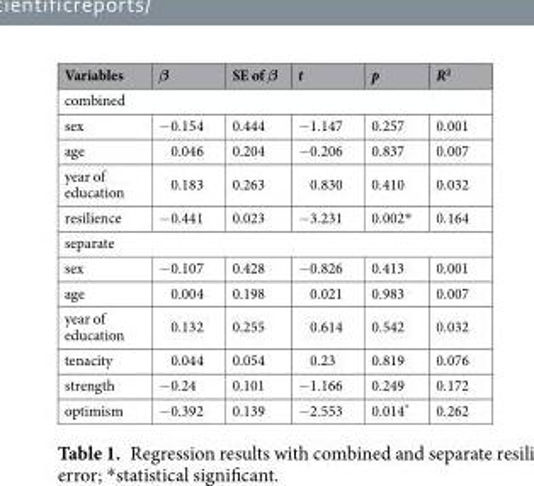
<table><thead><tr><td>Variables</td><td>β</td><td>SE of β</td><td>t</td><td>p</td><td>R<sup>2</sup></td></tr></thead><tbody><tr><td colspan="6">combined</td></tr><tr><td>sex</td><td>−0.154</td><td>0.444</td><td>−1.147</td><td>0.257</td><td>0.001</td></tr><tr><td>age</td><td>0.046</td><td>0.204</td><td>−0.206</td><td>0.837</td><td>0.007</td></tr><tr><td>year of education</td><td>0.183</td><td>0.263</td><td>0.830</td><td>0.410</td><td>0.032</td></tr><tr><td>resilience</td><td>−0.441</td><td>0.023</td><td>−3.231</td><td>0.002*</td><td>0.164</td></tr><tr><td colspan="6">separate</td></tr><tr><td>sex</td><td>−0.107</td><td>0.428</td><td>−0.826</td><td>0.413</td><td>0.001</td></tr><tr><td>age</td><td>0.004</td><td>0.198</td><td>0.021</td><td>0.983</td><td>0.007</td></tr><tr><td>year of education</td><td>0.132</td><td>0.255</td><td>0.614</td><td>0.542</td><td>0.032</td></tr><tr><td>tenacity</td><td>0.044</td><td>0.054</td><td>0.23</td><td>0.819</td><td>0.076</td></tr><tr><td>strength</td><td>−0.24</td><td>0.101</td><td>−1.166</td><td>0.249</td><td>0.172</td></tr><tr><td>optimism</td><td>−0.392</td><td>0.139</td><td>−2.553</td><td>0.014*</td><td>0.262</td></tr></tbody></table>